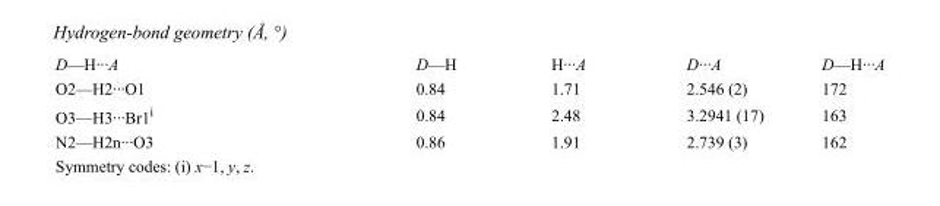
<table><tbody><tr><td>D—H···A</td><td>D—H</td><td>H···A</td><td>D···A</td><td>D—H···A</td></tr><tr><td>O2—H2···O1</td><td>0.84</td><td>1.71</td><td>2.546 (2)</td><td>172</td></tr><tr><td>O3—H3···Br1<sup>i</sup></td><td>0.84</td><td>2.48</td><td>3.2941 (17)</td><td>163</td></tr><tr><td>N2—H2n···O3</td><td>0.86</td><td>1.91</td><td>2.739 (3)</td><td>162</td></tr></tbody></table>